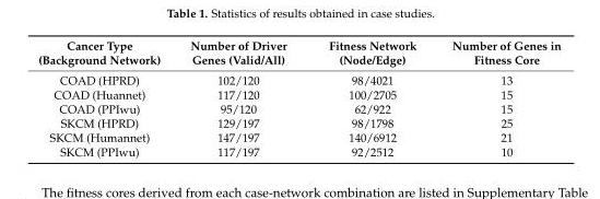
<table><thead><tr><td>Cancer Type (Background Network)</td><td>Number of Driver Genes (Valid/All)</td><td>Fitness Network (Node/Edge)</td><td>Number of Genes in Fitness Core</td></tr></thead><tbody><tr><td>COAD (HPRD)</td><td>102/120</td><td>98/4021</td><td>13</td></tr><tr><td>COAD (Huannet)</td><td>117/120</td><td>100/2705</td><td>15</td></tr><tr><td>COAD (PPIwu)</td><td>95/120</td><td>62/922</td><td>15</td></tr><tr><td>SKCM (HPRD)</td><td>129/197</td><td>98/1798</td><td>25</td></tr><tr><td>SKCM (Humannet)</td><td>147/197</td><td>140/6912</td><td>21</td></tr><tr><td>SKCM (PPIwu)</td><td>117/197</td><td>92/2512</td><td>10</td></tr></tbody></table>